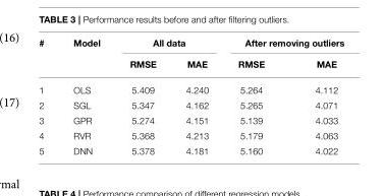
<table><thead><tr><td rowspan="2">#</td><td rowspan="2">Model</td><td colspan="2">All data</td><td colspan="2">After removing outliers</td></tr><tr><td>RMSE</td><td>MAE</td><td>RMSE</td><td>MAE</td></tr></thead><tbody><tr><td>1</td><td>OLS</td><td>5.409</td><td>4.240</td><td>5.264</td><td>4.112</td></tr><tr><td>2</td><td>SGL</td><td>5.347</td><td>4.162</td><td>5.265</td><td>4.071</td></tr><tr><td>3</td><td>GPR</td><td>5.274</td><td>4.151</td><td>5.139</td><td>4.033</td></tr><tr><td>4</td><td>RVR</td><td>5.368</td><td>4.213</td><td>5.179</td><td>4.063</td></tr><tr><td>5</td><td>DNN</td><td>5.378</td><td>4.181</td><td>5.160</td><td>4.022</td></tr></tbody></table>